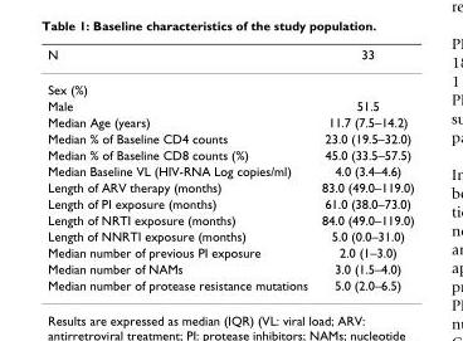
<table><thead><tr><td>N</td><td>33</td></tr></thead><tbody><tr><td colspan="2">Sex (%)</td></tr><tr><td>Male</td><td>51.5</td></tr><tr><td>Median Age (years)</td><td>11.7 (7.5–14.2)</td></tr><tr><td>Median % of Baseline CD4 counts</td><td>23.0 (19.5–32.0)</td></tr><tr><td>Median % of Baseline CD8 counts (%)</td><td>45.0 (33.5–57.5)</td></tr><tr><td>Median Baseline VL (HIV-RNA Log copies/ml)</td><td>4.0 (3.4–4.6)</td></tr><tr><td>Length of ARV therapy (months)</td><td>83.0 (49.0–119.0)</td></tr><tr><td>Length of PI exposure (months)</td><td>61.0 (38.0–73.0)</td></tr><tr><td>Length of NRTI exposure (months)</td><td>84.0 (49.0–119.0)</td></tr><tr><td>Length of NNRTI exposure (months)</td><td>5.0 (0.0–31.0)</td></tr><tr><td>Median number of previous PI exposure</td><td>2.0 (1–3.0)</td></tr><tr><td>Median number of NAMs</td><td>3.0 (1.5–4.0)</td></tr><tr><td>Median number of protease resistance mutations</td><td>5.0 (2.0–6.5)</td></tr></tbody></table>